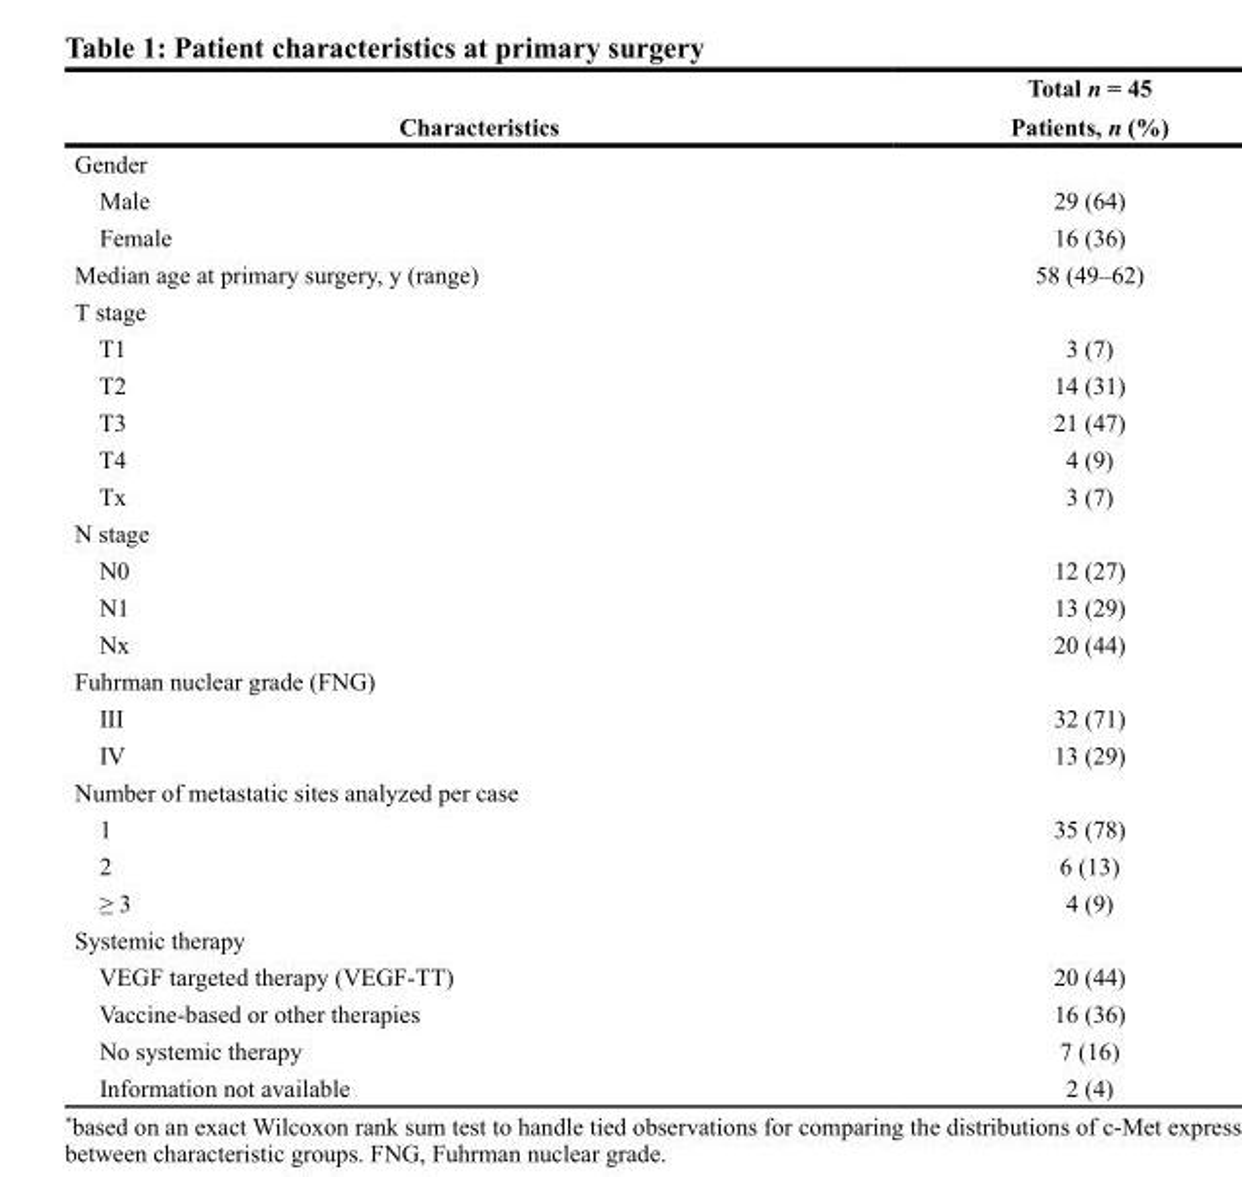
<table><thead><tr><td rowspan="2">Characteristics</td><td rowspan="2">Total n = 45 Patients, n (%)</td></tr><tr></tr></thead><tbody><tr><td colspan="2">Gender</td></tr><tr><td>Male</td><td>29 (64)</td></tr><tr><td>Female</td><td>16 (36)</td></tr><tr><td>Median age at primary surgery, y (range)</td><td>58 (49–62)</td></tr><tr><td colspan="2">T stage</td></tr><tr><td>T1</td><td>3 (7)</td></tr><tr><td>T2</td><td>14 (31)</td></tr><tr><td>T3</td><td>21 (47)</td></tr><tr><td>T4</td><td>4 (9)</td></tr><tr><td>Tx</td><td>3 (7)</td></tr><tr><td colspan="2">N stage</td></tr><tr><td>N0</td><td>12 (27)</td></tr><tr><td>N1</td><td>13 (29)</td></tr><tr><td>Nx</td><td>20 (44)</td></tr><tr><td colspan="2">Fuhrman nuclear grade (FNG)</td></tr><tr><td>III</td><td>32 (71)</td></tr><tr><td>IV</td><td>13 (29)</td></tr><tr><td colspan="2">Number of metastatic sites analyzed per case</td></tr><tr><td>1</td><td>35 (78)</td></tr><tr><td>2</td><td>6 (13)</td></tr><tr><td>≥ 3</td><td>4 (9)</td></tr><tr><td colspan="2">Systemic therapy</td></tr><tr><td>VEGF targeted therapy (VEGF-TT)</td><td>20 (44)</td></tr><tr><td>Vaccine-based or other therapies</td><td>16 (36)</td></tr><tr><td>No systemic therapy</td><td>7 (16)</td></tr><tr><td>Information not available</td><td>2 (4)</td></tr></tbody></table>